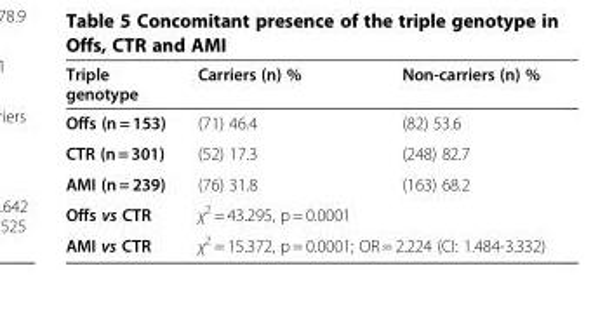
<table><thead><tr><td>Triple genotype</td><td>Carriers (n) %</td><td>Non-carriers (n) %</td></tr></thead><tbody><tr><td>Offs (n = 153)</td><td>(71) 46.4</td><td>(82) 53.6</td></tr><tr><td>CTR (n = 301)</td><td>(52) 17.3</td><td>(248) 82.7</td></tr><tr><td>AMI (n = 239)</td><td>(76) 31.8</td><td>(163) 68.2</td></tr><tr><td>Offs vs CTR</td><td colspan="2">χ<sup>2</sup> = 43.295, p = 0.0001</td></tr><tr><td>AMI vs CTR</td><td colspan="2">χ<sup>2</sup> = 15.372, p = 0.0001; OR = 2.224 (CI: 1.484-3.332)</td></tr></tbody></table>